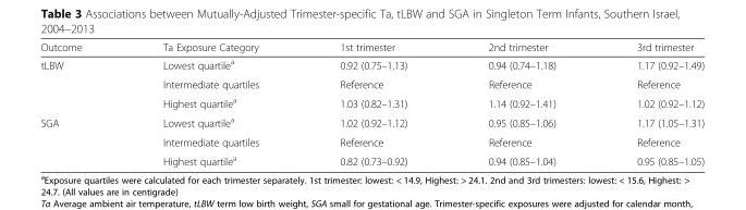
<table><thead><tr><td>Outcome</td><td>Ta Exposure Category</td><td>1st trimester</td><td>2nd trimester</td><td>3rd trimester</td></tr></thead><tbody><tr><td rowspan="3">tLBW</td><td>Lowest quartile<sup>a</sup></td><td>0.92 (0.75–1.13)</td><td>0.94 (0.74–1.18)</td><td>1.17 (0.92–1.49)</td></tr><tr><td>Intermediate quartiles</td><td>Reference</td><td>Reference</td><td>Reference</td></tr><tr><td>Highest quartile<sup>a</sup></td><td>1.03 (0.82–1.31)</td><td>1.14 (0.92–1.41)</td><td>1.02 (0.92–1.12)</td></tr><tr><td rowspan="3">SGA</td><td>Lowest quartile<sup>a</sup></td><td>1.02 (0.92–1.12)</td><td>0.95 (0.85–1.06)</td><td>1.17 (1.05–1.31)</td></tr><tr><td>Intermediate quartiles</td><td>Reference</td><td>Reference</td><td>Reference</td></tr><tr><td>Highest quartile<sup>a</sup></td><td>0.82 (0.73–0.92)</td><td>0.94 (0.85–1.04)</td><td>0.95 (0.85–1.05)</td></tr></tbody></table>